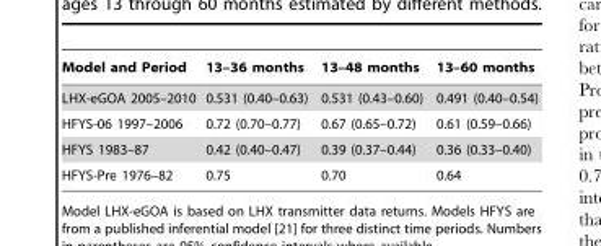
<table><thead><tr><td>Model and Period</td><td>13–36 months</td><td>13–48 months</td><td>13–60 months</td></tr></thead><tbody><tr><td>LHX-eGOA 2005–2010</td><td>0.531 (0.40–0.63)</td><td>0.531 (0.43–0.60)</td><td>0.491 (0.40–0.54)</td></tr><tr><td>HFYS-06 1997–2006</td><td>0.72 (0.70–0.77)</td><td>0.67 (0.65–0.72)</td><td>0.61 (0.59–0.66)</td></tr><tr><td>HFYS 1983–87</td><td>0.42 (0.40–0.47)</td><td>0.39 (0.37–0.44)</td><td>0.36 (0.33–0.40)</td></tr><tr><td>HFYS-Pre 1976–82</td><td>0.75</td><td>0.70</td><td>0.64</td></tr></tbody></table>